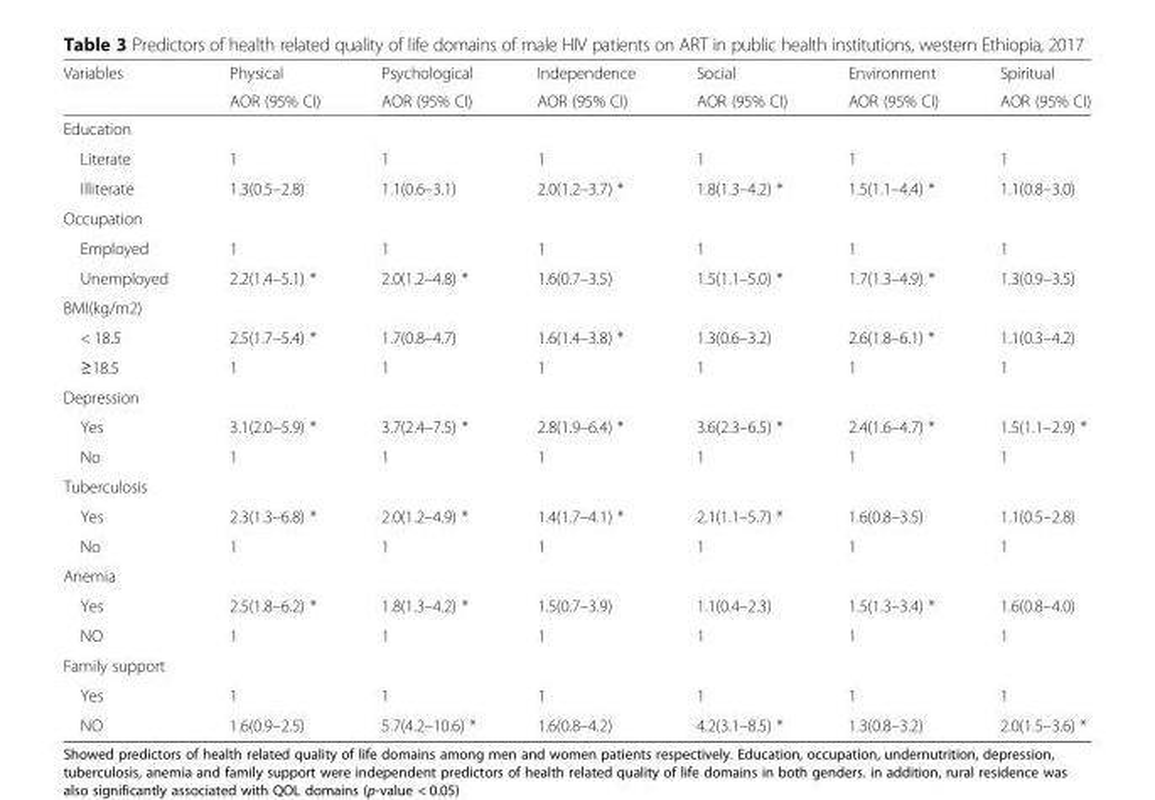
<table><thead><tr><td rowspan="2">Variables</td><td rowspan="2">Physical AOR (95% CI)</td><td rowspan="2">Psychological AOR (95% CI)</td><td rowspan="2">Independence AOR (95% CI)</td><td rowspan="2">Social AOR (95% CI)</td><td rowspan="2">Environment AOR (95% CI)</td><td rowspan="2">Spiritual AOR (95% CI)</td></tr><tr></tr></thead><tbody><tr><td colspan="7">Education</td></tr><tr><td>Literate</td><td>1</td><td>1</td><td>1</td><td>1</td><td>1</td><td>1</td></tr><tr><td>Illiterate</td><td>1.3(0.5–2.8)</td><td>1.1(0.6–3.1)</td><td>2.0(1.2–3.7) *</td><td>1.8(1.3–4.2) *</td><td>1.5(1.1–4.4) *</td><td>1.1(0.8–3.0)</td></tr><tr><td colspan="7">Occupation</td></tr><tr><td>Employed</td><td>1</td><td>1</td><td>1</td><td>1</td><td>1</td><td>1</td></tr><tr><td>Unemployed</td><td>2.2(1.4–5.1) *</td><td>2.0(1.2–4.8) *</td><td>1.6(0.7–3.5)</td><td>1.5(1.1–5.0) *</td><td>1.7(1.3–4.9) *</td><td>1.3(0.9–3.5)</td></tr><tr><td colspan="7">BMI(kg/m2)</td></tr><tr><td>&lt; 18.5</td><td>2.5(1.7–5.4) *</td><td>1.7(0.8–4.7)</td><td>1.6(1.4–3.8) *</td><td>1.3(0.6–3.2)</td><td>2.6(1.8–6.1) *</td><td>1.1(0.3–4.2)</td></tr><tr><td>≥18.5</td><td>1</td><td>1</td><td>1</td><td>1</td><td>1</td><td>1</td></tr><tr><td colspan="7">Depression</td></tr><tr><td>Yes</td><td>3.1(2.0–5.9) *</td><td>3.7(2.4–7.5) *</td><td>2.8(1.9–6.4) *</td><td>3.6(2.3–6.5) *</td><td>2.4(1.6–4.7) *</td><td>1.5(1.1–2.9) *</td></tr><tr><td>No</td><td>1</td><td>1</td><td>1</td><td>1</td><td>1</td><td>1</td></tr><tr><td colspan="7">Tuberculosis</td></tr><tr><td>Yes</td><td>2.3(1.3–6.8) *</td><td>2.0(1.2–4.9) *</td><td>1.4(1.7–4.1) *</td><td>2.1(1.1–5.7) *</td><td>1.6(0.8–3.5)</td><td>1.1(0.5–2.8)</td></tr><tr><td>No</td><td>1</td><td>1</td><td>1</td><td>1</td><td>1</td><td>1</td></tr><tr><td colspan="7">Anemia</td></tr><tr><td>Yes</td><td>2.5(1.8–6.2) *</td><td>1.8(1.3–4.2) *</td><td>1.5(0.7–3.9)</td><td>1.1(0.4–2.3)</td><td>1.5(1.3–3.4) *</td><td>1.6(0.8–4.0)</td></tr><tr><td>NO</td><td>1</td><td>1</td><td>1</td><td>1</td><td>1</td><td>1</td></tr><tr><td colspan="7">Family support</td></tr><tr><td>Yes</td><td>1</td><td>1</td><td>1</td><td>1</td><td>1</td><td>1</td></tr><tr><td>NO</td><td>1.6(0.9–2.5)</td><td>5.7(4.2–10.6) *</td><td>1.6(0.8–4.2)</td><td>4.2(3.1–8.5) *</td><td>1.3(0.8–3.2)</td><td>2.0(1.5–3.6) *</td></tr></tbody></table>